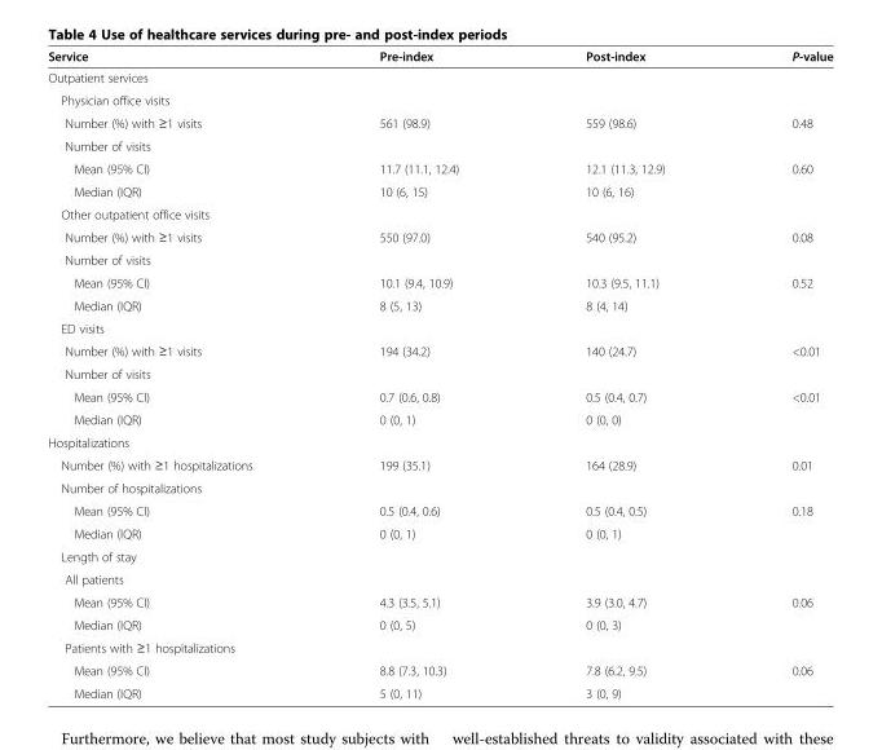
<table><thead><tr><td>Service</td><td>Pre-index</td><td>Post-index</td><td>P-value</td></tr></thead><tbody><tr><td colspan="4">Outpatient services</td></tr><tr><td colspan="4">Physician office visits</td></tr><tr><td>Number (%) with ≥1 visits</td><td>561 (98.9)</td><td>559 (98.6)</td><td>0.48</td></tr><tr><td colspan="4">Number of visits</td></tr><tr><td>Mean (95% CI)</td><td>11.7 (11.1, 12.4)</td><td>12.1 (11.3, 12.9)</td><td>0.60</td></tr><tr><td>Median (IQR)</td><td>10 (6, 15)</td><td>10 (6, 16)</td><td></td></tr><tr><td colspan="4">Other outpatient office visits</td></tr><tr><td>Number (%) with ≥1 visits</td><td>550 (97.0)</td><td>540 (95.2)</td><td>0.08</td></tr><tr><td colspan="4">Number of visits</td></tr><tr><td>Mean (95% CI)</td><td>10.1 (9.4, 10.9)</td><td>10.3 (9.5, 11.1)</td><td>0.52</td></tr><tr><td>Median (IQR)</td><td>8 (5, 13)</td><td>8 (4, 14)</td><td></td></tr><tr><td colspan="4">ED visits</td></tr><tr><td>Number (%) with ≥1 visits</td><td>194 (34.2)</td><td>140 (24.7)</td><td>&lt;0.01</td></tr><tr><td colspan="4">Number of visits</td></tr><tr><td>Mean (95% CI)</td><td>0.7 (0.6, 0.8)</td><td>0.5 (0.4, 0.7)</td><td>&lt;0.01</td></tr><tr><td>Median (IQR)</td><td>0 (0, 1)</td><td>0 (0, 0)</td><td></td></tr><tr><td colspan="4">Hospitalizations</td></tr><tr><td>Number (%) with ≥1 hospitalizations</td><td>199 (35.1)</td><td>164 (28.9)</td><td>0.01</td></tr><tr><td colspan="4">Number of hospitalizations</td></tr><tr><td>Mean (95% CI)</td><td>0.5 (0.4, 0.6)</td><td>0.5 (0.4, 0.5)</td><td>0.18</td></tr><tr><td>Median (IQR)</td><td>0 (0, 1)</td><td>0 (0, 1)</td><td></td></tr><tr><td colspan="4">Length of stay</td></tr><tr><td colspan="4">All patients</td></tr><tr><td>Mean (95% CI)</td><td>4.3 (3.5, 5.1)</td><td>3.9 (3.0, 4.7)</td><td>0.06</td></tr><tr><td>Median (IQR)</td><td>0 (0, 5)</td><td>0 (0, 3)</td><td></td></tr><tr><td colspan="4">Patients with ≥1 hospitalizations</td></tr><tr><td>Mean (95% CI)</td><td>8.8 (7.3, 10.3)</td><td>7.8 (6.2, 9.5)</td><td>0.06</td></tr><tr><td>Median (IQR)</td><td>5 (0, 11)</td><td>3 (0, 9)</td><td></td></tr></tbody></table>